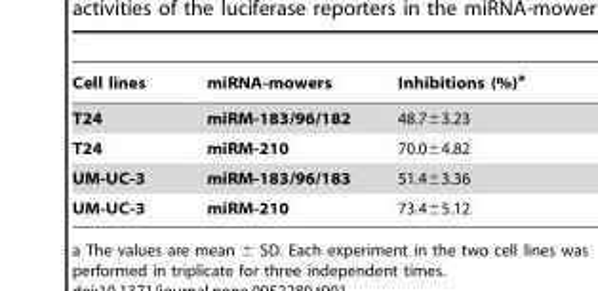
<table><thead><tr><td>Cell lines</td><td>miRNA-mowers</td><td>Inhibitions (%)<sup>a</sup></td></tr></thead><tbody><tr><td>T24</td><td>miRM-183/96/182</td><td>48.7±3.23</td></tr><tr><td>T24</td><td>miRM-210</td><td>70.0±4.82</td></tr><tr><td>UM-UC-3</td><td>miRM-183/96/183</td><td>51.4±3.36</td></tr><tr><td>UM-UC-3</td><td>miRM-210</td><td>73.4±5.12</td></tr></tbody></table>